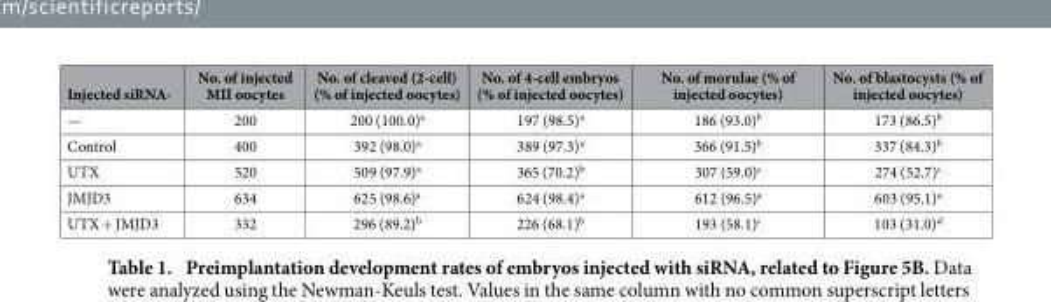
<table><thead><tr><td>Injected siRNA-</td><td>No. of injected MII oocytes</td><td>No. of cleaved (2-cell) (% of injected oocytes)</td><td>No. of 4-cell embryos (% of injected oocytes)</td><td>No. of morulae (% of injected oocytes)</td><td>No. of blastocysts (% of injected oocytes)</td></tr></thead><tbody><tr><td>—</td><td>200</td><td>200 (100.0)<sup>a</sup></td><td>197 (98.5)<sup>a</sup></td><td>186 (93.0)<sup>b</sup></td><td>173 (86.5)<sup>b</sup></td></tr><tr><td>Control</td><td>400</td><td>392 (98.0)<sup>a</sup></td><td>389 (97.3)<sup>a</sup></td><td>366 (91.5)<sup>b</sup></td><td>337 (84.3)<sup>b</sup></td></tr><tr><td>UTX</td><td>520</td><td>509 (97.9)<sup>a</sup></td><td>365 (70.2)<sup>b</sup></td><td>307 (59.0)<sup>c</sup></td><td>274 (52.7)<sup>c</sup></td></tr><tr><td>JMJD3</td><td>634</td><td>625 (98.6)<sup>a</sup></td><td>624 (98.4)<sup>a</sup></td><td>612 (96.5)<sup>a</sup></td><td>603 (95.1)<sup>a</sup></td></tr><tr><td>UTX + JMJD3</td><td>332</td><td>296 (89.2)<sup>b</sup></td><td>226 (68.1)<sup>b</sup></td><td>193 (58.1)<sup>c</sup></td><td>103 (31.0)<sup>d</sup></td></tr></tbody></table>